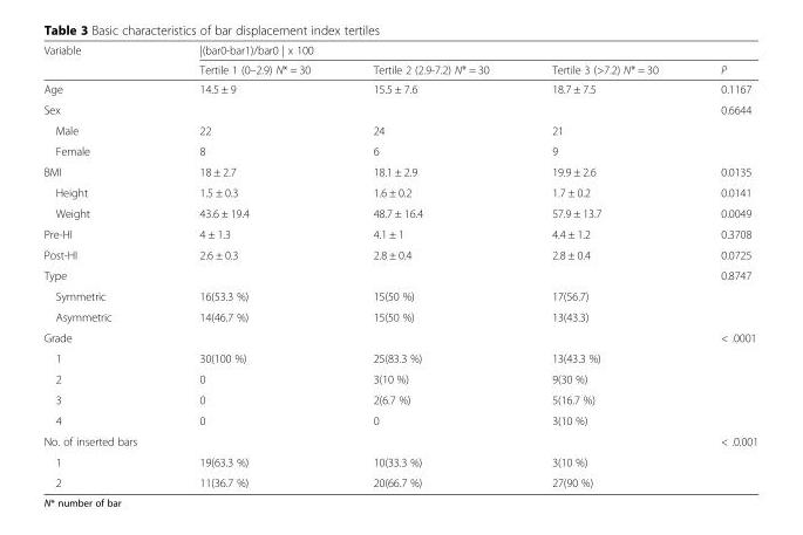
<table><thead><tr><td rowspan="2">Variable</td><td colspan="4">|(bar0-bar1)/bar0 | x 100</td></tr><tr><td>Tertile 1 (0–2.9) N* = 30</td><td>Tertile 2 (2.9-7.2) N* = 30</td><td>Tertile 3 (&gt;7.2) N* = 30</td><td>P</td></tr></thead><tbody><tr><td>Age</td><td>14.5 ± 9</td><td>15.5 ± 7.6</td><td>18.7 ± 7.5</td><td>0.1167</td></tr><tr><td>Sex</td><td></td><td></td><td></td><td>0.6644</td></tr><tr><td>Male</td><td>22</td><td>24</td><td>21</td><td></td></tr><tr><td>Female</td><td>8</td><td>6</td><td>9</td><td></td></tr><tr><td>BMI</td><td>18 ± 2.7</td><td>18.1 ± 2.9</td><td>19.9 ± 2.6</td><td>0.0135</td></tr><tr><td>Height</td><td>1.5 ± 0.3</td><td>1.6 ± 0.2</td><td>1.7 ± 0.2</td><td>0.0141</td></tr><tr><td>Weight</td><td>43.6 ± 19.4</td><td>48.7 ± 16.4</td><td>57.9 ± 13.7</td><td>0.0049</td></tr><tr><td>Pre-HI</td><td>4 ± 1.3</td><td>4.1 ± 1</td><td>4.4 ± 1.2</td><td>0.3708</td></tr><tr><td>Post-HI</td><td>2.6 ± 0.3</td><td>2.8 ± 0.4</td><td>2.8 ± 0.4</td><td>0.0725</td></tr><tr><td>Type</td><td></td><td></td><td></td><td>0.8747</td></tr><tr><td>Symmetric</td><td>16(53.3 %)</td><td>15(50 %)</td><td>17(56.7)</td><td></td></tr><tr><td>Asymmetric</td><td>14(46.7 %)</td><td>15(50 %)</td><td>13(43.3)</td><td></td></tr><tr><td>Grade</td><td></td><td></td><td></td><td>&lt; .0001</td></tr><tr><td>1</td><td>30(100 %)</td><td>25(83.3 %)</td><td>13(43.3 %)</td><td></td></tr><tr><td>2</td><td>0</td><td>3(10 %)</td><td>9(30 %)</td><td></td></tr><tr><td>3</td><td>0</td><td>2(6.7 %)</td><td>5(16.7 %)</td><td></td></tr><tr><td>4</td><td>0</td><td>0</td><td>3(10 %)</td><td></td></tr><tr><td>No. of inserted bars</td><td></td><td></td><td></td><td>&lt; .0.001</td></tr><tr><td>1</td><td>19(63.3 %)</td><td>10(33.3 %)</td><td>3(10 %)</td><td></td></tr><tr><td>2</td><td>11(36.7 %)</td><td>20(66.7 %)</td><td>27(90 %)</td><td></td></tr></tbody></table>